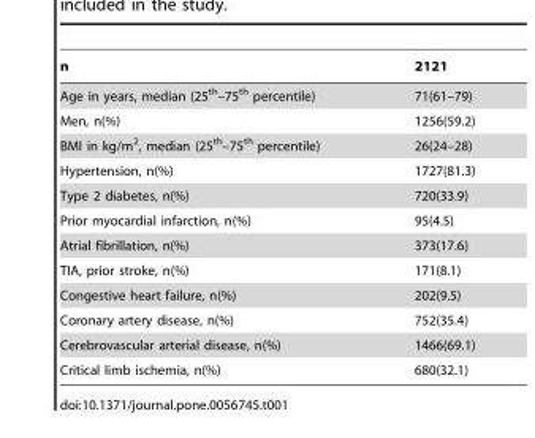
<table><thead><tr><td>n</td><td>2121</td></tr></thead><tbody><tr><td>Age in years, median (25<sup>th</sup>–75<sup>th</sup> percentile)</td><td>71(61–79)</td></tr><tr><td>Men, n(%)</td><td>1256(59.2)</td></tr><tr><td>BMI in kg/m<sup>2</sup>, median (25<sup>th</sup>–75<sup>th</sup> percentile)</td><td>26(24–28)</td></tr><tr><td>Hypertension, n(%)</td><td>1727(81.3)</td></tr><tr><td>Type 2 diabetes, n(%)</td><td>720(33.9)</td></tr><tr><td>Prior myocardial infarction, n(%)</td><td>95(4.5)</td></tr><tr><td>Atrial fibrillation, n(%)</td><td>373(17.6)</td></tr><tr><td>TIA, prior stroke, n(%)</td><td>171(8.1)</td></tr><tr><td>Congestive heart failure, n(%)</td><td>202(9.5)</td></tr><tr><td>Coronary artery disease, n(%)</td><td>752(35.4)</td></tr><tr><td>Cerebrovascular arterial disease, n(%)</td><td>1466(69.1)</td></tr><tr><td>Critical limb ischemia, n(%)</td><td>680(32.1)</td></tr></tbody></table>